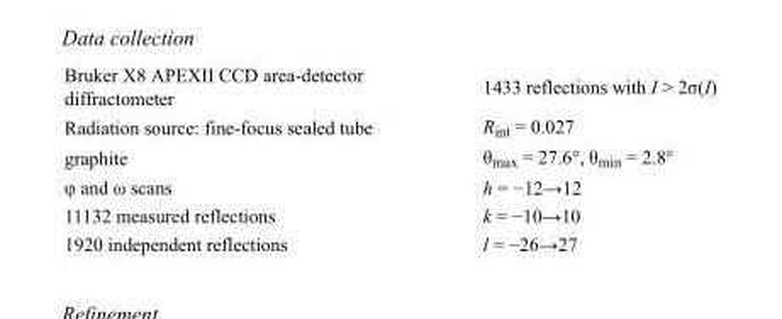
<table><tbody><tr><td>Bruker X8 APEXII CCD area-detector diffractometer</td><td>1433 reflections with I &gt; 2σ(I)</td></tr><tr><td>Radiation source: fine-focus sealed tube</td><td>R<sub>int</sub> = 0.027</td></tr><tr><td>graphite</td><td>θ<sub>max</sub> = 27.6°, θ<sub>min</sub> = 2.8°</td></tr><tr><td>φ and ω scans</td><td>h = −12→12</td></tr><tr><td>11132 measured reflections</td><td>k = −10→10</td></tr><tr><td>1920 independent reflections</td><td>l = −26→27</td></tr></tbody></table>